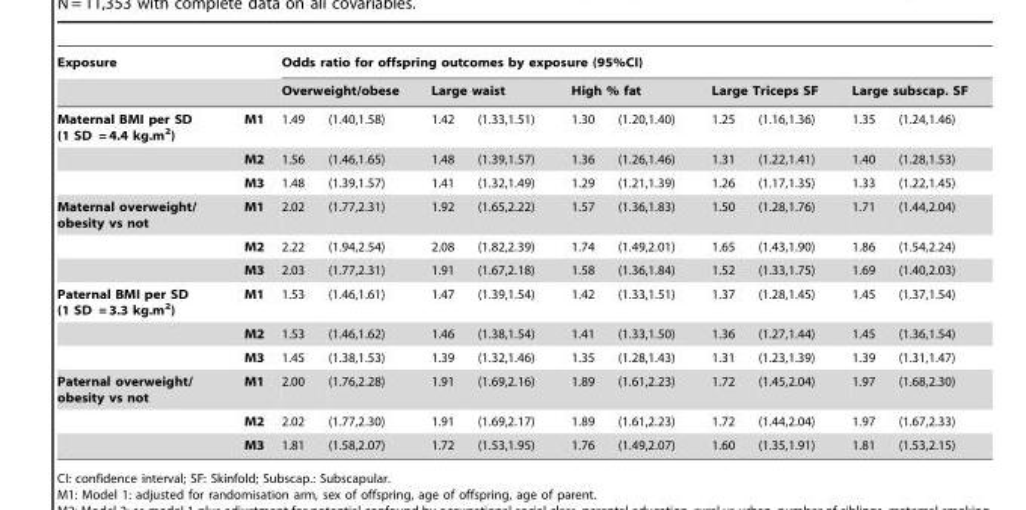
<table><thead><tr><td rowspan="3">Exposure Maternal BMI per SD (1 SD = 4.4 kg.m<sup>2</sup>)</td><td rowspan="3">M1</td><td colspan="10">Odds ratio for offspring outcomes by exposure (95%CI)</td></tr><tr><td colspan="2">Overweight/obese</td><td colspan="2">Large waist</td><td colspan="2">High % fat</td><td colspan="2">Large Triceps SF</td><td colspan="2">Large subscap. SF</td></tr><tr><td>1.49</td><td>(1.40,1.58)</td><td>1.42</td><td>(1.33,1.51)</td><td>1.30</td><td>(1.20,1.40)</td><td>1.25</td><td>(1.16,1.36)</td><td>1.35</td><td>(1.24,1.46)</td></tr></thead><tbody><tr><td></td><td>M2</td><td>1.56</td><td>(1.46,1.65)</td><td>1.48</td><td>(1.39,1.57)</td><td>1.36</td><td>(1.26,1.46)</td><td>1.31</td><td>(1.22,1.41)</td><td>1.40</td><td>(1.28,1.53)</td></tr><tr><td></td><td>M3</td><td>1.48</td><td>(1.39,1.57)</td><td>1.41</td><td>(1.32,1.49)</td><td>1.29</td><td>(1.21,1.39)</td><td>1.26</td><td>(1.17,1.35)</td><td>1.33</td><td>(1.22,1.45)</td></tr><tr><td rowspan="3">Maternal overweight/ obesity vs not</td><td>M1</td><td>2.02</td><td>(1.77,2.31)</td><td>1.92</td><td>(1.65,2.22)</td><td>1.57</td><td>(1.36,1.83)</td><td>1.50</td><td>(1.28,1.76)</td><td>1.71</td><td>(1.44,2.04)</td></tr><tr><td>M2</td><td>2.22</td><td>(1.94,2.54)</td><td>2.08</td><td>(1.82,2.39)</td><td>1.74</td><td>(1.49,2.01)</td><td>1.65</td><td>(1.43,1.90)</td><td>1.86</td><td>(1.54,2.24)</td></tr><tr><td>M3</td><td>2.03</td><td>(1.77,2.31)</td><td>1.91</td><td>(1.67,2.18)</td><td>1.58</td><td>(1.36,1.84)</td><td>1.52</td><td>(1.33,1.75)</td><td>1.69</td><td>(1.40,2.03)</td></tr><tr><td rowspan="3">Paternal BMI per SD (1 SD = 3.3 kg.m<sup>2</sup>)</td><td>M1</td><td>1.53</td><td>(1.46,1.61)</td><td>1.47</td><td>(1.39,1.54)</td><td>1.42</td><td>(1.33,1.51)</td><td>1.37</td><td>(1.28,1.45)</td><td>1.45</td><td>(1.37,1.54)</td></tr><tr><td>M2</td><td>1.53</td><td>(1.46,1.62)</td><td>1.46</td><td>(1.38,1.54)</td><td>1.41</td><td>(1.33,1.50)</td><td>1.36</td><td>(1.27,1.44)</td><td>1.45</td><td>(1.36,1.54)</td></tr><tr><td>M3</td><td>1.45</td><td>(1.38,1.53)</td><td>1.39</td><td>(1.32,1.46)</td><td>1.35</td><td>(1.28,1.43)</td><td>1.31</td><td>(1.23,1.39)</td><td>1.39</td><td>(1.31,1.47)</td></tr><tr><td rowspan="3">Paternal overweight/ obesity vs not</td><td>M1</td><td>2.00</td><td>(1.76,2.28)</td><td>1.91</td><td>(1.69,2.16)</td><td>1.89</td><td>(1.61,2.23)</td><td>1.72</td><td>(1.45,2.04)</td><td>1.97</td><td>(1.68,2.30)</td></tr><tr><td>M2</td><td>2.02</td><td>(1.77,2.30)</td><td>1.91</td><td>(1.69,2.17)</td><td>1.89</td><td>(1.61,2.23)</td><td>1.72</td><td>(1.44,2.04)</td><td>1.97</td><td>(1.67,2.33)</td></tr><tr><td>M3</td><td>1.81</td><td>(1.58,2.07)</td><td>1.72</td><td>(1.53,1.95)</td><td>1.76</td><td>(1.49,2.07)</td><td>1.60</td><td>(1.35,1.91)</td><td>1.81</td><td>(1.53,2.15)</td></tr></tbody></table>